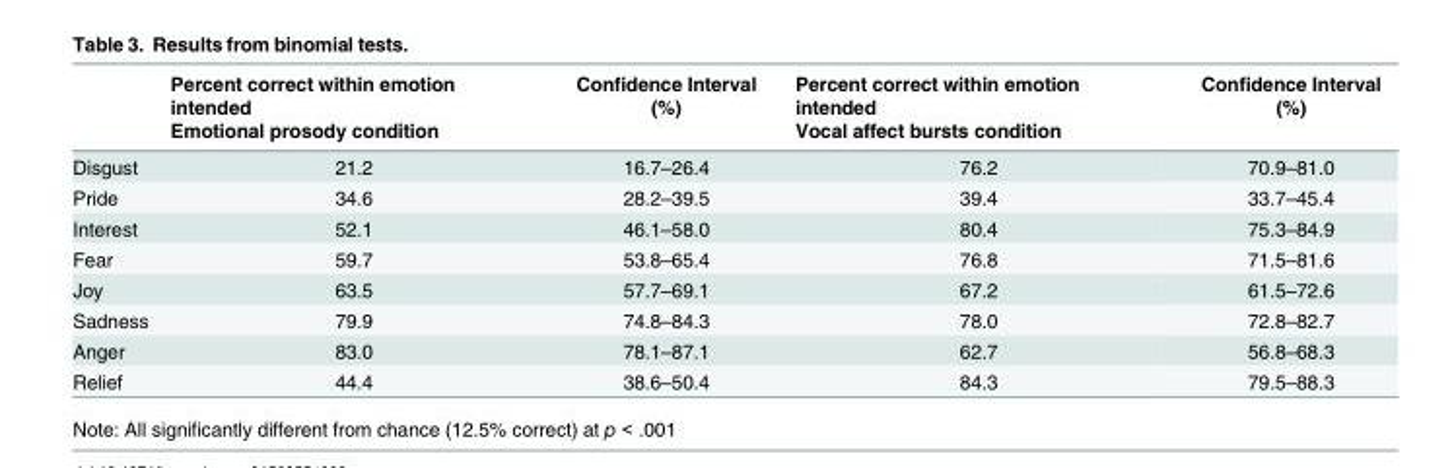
<table><thead><tr><td rowspan="2"></td><td>Percent correct within emotion intended</td><td>Confidence Interval (%)</td><td>Percent correct within emotion intended</td><td>Confidence Interval (%)</td></tr><tr><td colspan="2">Emotional prosody condition</td><td colspan="2">Vocal affect bursts condition</td></tr></thead><tbody><tr><td>Disgust</td><td>21.2</td><td>16.7–26.4</td><td>76.2</td><td>70.9–81.0</td></tr><tr><td>Pride</td><td>34.6</td><td>28.2–39.5</td><td>39.4</td><td>33.7–45.4</td></tr><tr><td>Interest</td><td>52.1</td><td>46.1–58.0</td><td>80.4</td><td>75.3–84.9</td></tr><tr><td>Fear</td><td>59.7</td><td>53.8–65.4</td><td>76.8</td><td>71.5–81.6</td></tr><tr><td>Joy</td><td>63.5</td><td>57.7–69.1</td><td>67.2</td><td>61.5–72.6</td></tr><tr><td>Sadness</td><td>79.9</td><td>74.8–84.3</td><td>78.0</td><td>72.8–82.7</td></tr><tr><td>Anger</td><td>83.0</td><td>78.1–87.1</td><td>62.7</td><td>56.8–68.3</td></tr><tr><td>Relief</td><td>44.4</td><td>38.6–50.4</td><td>84.3</td><td>79.5–88.3</td></tr></tbody></table>